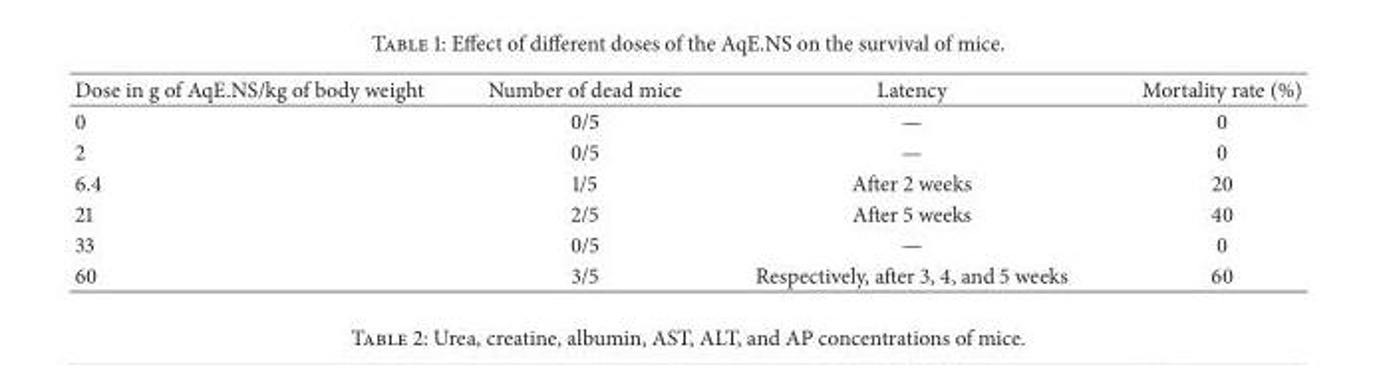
<table><thead><tr><td>Dose in g of AqE.NS/kg of body weight</td><td>Number of dead mice</td><td>Latency</td><td>Mortality rate (%)</td></tr></thead><tbody><tr><td>0</td><td>0/5</td><td>—</td><td>0</td></tr><tr><td>2</td><td>0/5</td><td>—</td><td>0</td></tr><tr><td>6.4</td><td>1/5</td><td>After 2 weeks</td><td>20</td></tr><tr><td>21</td><td>2/5</td><td>After 5 weeks</td><td>40</td></tr><tr><td>33</td><td>0/5</td><td>—</td><td>0</td></tr><tr><td>60</td><td>3/5</td><td>Respectively, after 3, 4, and 5 weeks</td><td>60</td></tr></tbody></table>